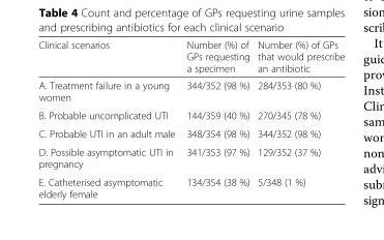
<table><thead><tr><td>Clinical scenarios</td><td>Number (%) of GPs requesting a specimen</td><td>Number (%) of GPs that would prescribe an antibiotic</td></tr></thead><tbody><tr><td>A. Treatment failure in a young women</td><td>344/352 (98 %)</td><td>284/353 (80 %)</td></tr><tr><td>B. Probable uncomplicated UTI</td><td>144/359 (40 %)</td><td>270/345 (78 %)</td></tr><tr><td>C. Probable UTI in an adult male</td><td>348/354 (98 %)</td><td>344/352 (98 %)</td></tr><tr><td>D. Possible asymptomatic UTI in pregnancy</td><td>341/353 (97 %)</td><td>129/352 (37 %)</td></tr><tr><td>E. Catheterised asymptomatic elderly female</td><td>134/354 (38 %)</td><td>5/348 (1 %)</td></tr></tbody></table>